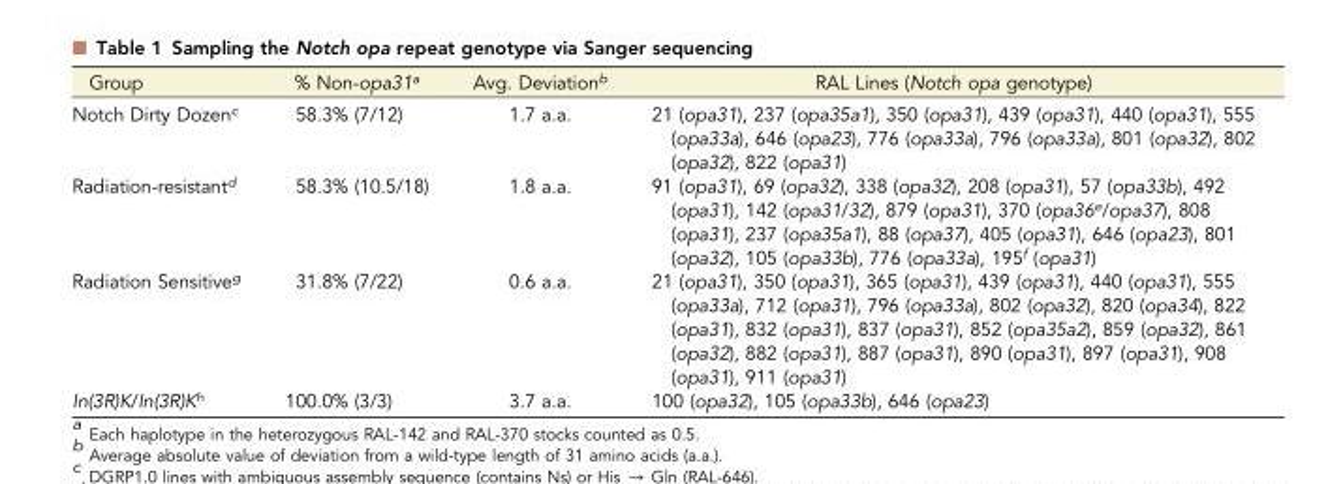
<table><thead><tr><td>Group</td><td>% Non-opa31<sup>a</sup></td><td>Avg. Deviation<sup>b</sup></td><td>RAL Lines (Notch opa genotype)</td></tr></thead><tbody><tr><td>Notch Dirty Dozen<sup>c</sup></td><td>58.3% (7/12)</td><td>1.7 a.a.</td><td>21 (opa31), 237 (opa35a1), 350 (opa31), 439 (opa31), 440 (opa31), 555 (opa33a), 646 (opa23), 776 (opa33a), 796 (opa33a), 801 (opa32), 802 (opa32), 822 (opa31)</td></tr><tr><td>Radiation-resistant<sup>d</sup></td><td>58.3% (10.5/18)</td><td>1.8 a.a.</td><td>91 (opa31), 69 (opa32), 338 (opa32), 208 (opa31), 57 (opa33b), 492 (opa31), 142 (opa31/32), 879 (opa31), 370 (opa36<sup>e</sup>/opa37), 808 (opa31), 237 (opa35a1), 88 (opa37), 405 (opa31), 646 (opa23), 801 (opa32), 105 (opa33b), 776 (opa33a), 195<sup>f</sup> (opa31)</td></tr><tr><td>Radiation Sensitive<sup>g</sup></td><td>31.8% (7/22)</td><td>0.6 a.a.</td><td>21 (opa31), 350 (opa31), 365 (opa31), 439 (opa31), 440 (opa31), 555 (opa33a), 712 (opa31), 796 (opa33a), 802 (opa32), 820 (opa34), 822 (opa31), 832 (opa31), 837 (opa31), 852 (opa35a2), 859 (opa32), 861 (opa32), 882 (opa31), 887 (opa31), 890 (opa31), 897 (opa31), 908 (opa31), 911 (opa31)</td></tr><tr><td>In(3R)K/In(3R)K<sup>h</sup></td><td>100.0% (3/3)</td><td>3.7 a.a.</td><td>100 (opa32), 105 (opa33b), 646 (opa23)</td></tr></tbody></table>